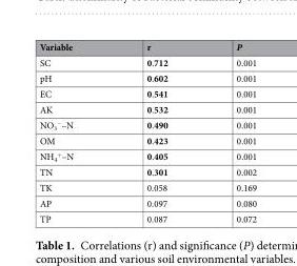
<table><thead><tr><td>Variable</td><td>r</td><td>P</td></tr></thead><tbody><tr><td>SC</td><td>0.712</td><td>0.001</td></tr><tr><td>pH</td><td>0.602</td><td>0.001</td></tr><tr><td>EC</td><td>0.541</td><td>0.001</td></tr><tr><td>AK</td><td>0.532</td><td>0.001</td></tr><tr><td>NO<sub>3</sub> <sup>−</sup>–N</td><td>0.490</td><td>0.001</td></tr><tr><td>OM</td><td>0.423</td><td>0.001</td></tr><tr><td>NH<sub>4</sub> <sup>+</sup>–N</td><td>0.405</td><td>0.001</td></tr><tr><td>TN</td><td>0.301</td><td>0.002</td></tr><tr><td>TK</td><td>0.058</td><td>0.169</td></tr><tr><td>AP</td><td>0.097</td><td>0.080</td></tr><tr><td>TP</td><td>0.087</td><td>0.072</td></tr></tbody></table>